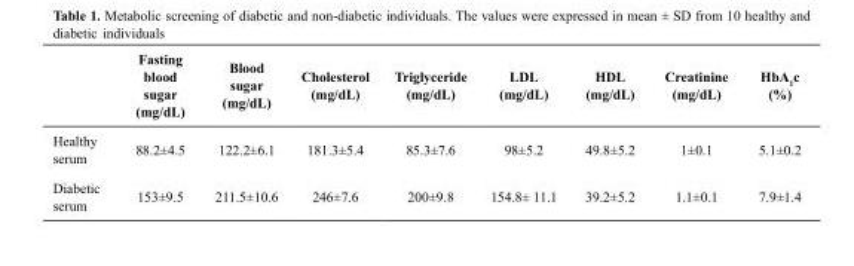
<table><thead><tr><td></td><td>Fasting blood sugar (mg/dL)</td><td>Blood sugar (mg/dL)</td><td>Cholesterol (mg/dL)</td><td>Triglyceride (mg/dL)</td><td>LDL (mg/dL)</td><td>HDL (mg/dL)</td><td>Creatinine (mg/dL)</td><td>HbA<sub>1</sub>c (%)</td></tr></thead><tbody><tr><td>Healthy serum</td><td>88.2±4.5</td><td>122.2±6.1</td><td>181.3±5.4</td><td>85.3±7.6</td><td>98±5.2</td><td>49.8±5.2</td><td>1±0.1</td><td>5.1±0.2</td></tr><tr><td>Diabetic serum</td><td>153±9.5</td><td>211.5±10.6</td><td>246±7.6</td><td>200±9.8</td><td>154.8± 11.1</td><td>39.2±5.2</td><td>1.1±0.1</td><td>7.9±1.4</td></tr></tbody></table>